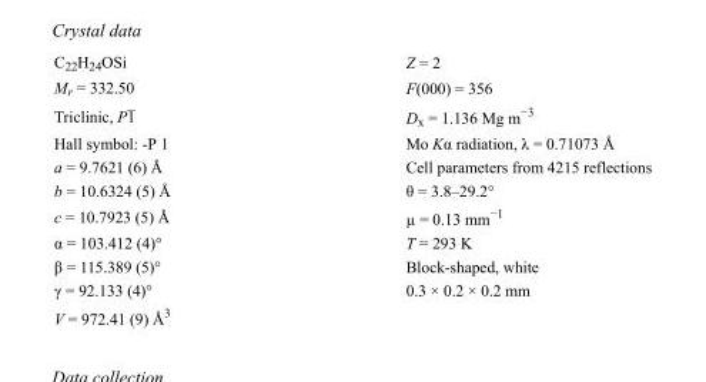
<table><tbody><tr><td>C<sub>22</sub>H<sub>24</sub>OSi</td><td>Z = 2</td></tr><tr><td>M<sub>r</sub> = 332.50</td><td>F(000) = 356</td></tr><tr><td>Triclinic, P1</td><td>D<sub>x</sub> = 1.136 Mg m<sup>−3</sup></td></tr><tr><td>Hall symbol: -P 1</td><td>Mo Kα radiation, λ = 0.71073 Å</td></tr><tr><td>a = 9.7621 (6) Å</td><td>Cell parameters from 4215 reflections</td></tr><tr><td>b = 10.6324 (5) Å</td><td>θ = 3.8–29.2°</td></tr><tr><td>c = 10.7923 (5) Å</td><td>µ = 0.13 mm<sup>−1</sup></td></tr><tr><td>α = 103.412 (4)°</td><td>T = 293 K</td></tr><tr><td>β = 115.389 (5)°</td><td>Block-shaped, white</td></tr><tr><td>γ = 92.133 (4)°</td><td>0.3 × 0.2 × 0.2 mm</td></tr><tr><td>V = 972.41 (9) Å<sup>3</sup></td><td></td></tr></tbody></table>